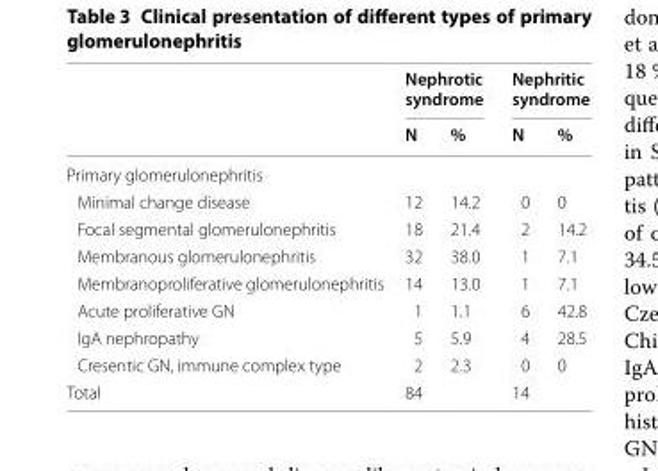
<table><thead><tr><td rowspan="2"></td><td colspan="2">Nephrotic syndrome</td><td colspan="2">Nephritic syndrome</td></tr><tr><td>N</td><td>%</td><td>N</td><td>%</td></tr></thead><tbody><tr><td colspan="5">Primary glomerulonephritis</td></tr><tr><td>Minimal change disease</td><td>12</td><td>14.2</td><td>0</td><td>0</td></tr><tr><td>Focal segmental glomerulonephritis</td><td>18</td><td>21.4</td><td>2</td><td>14.2</td></tr><tr><td>Membranous glomerulonephritis</td><td>32</td><td>38.0</td><td>1</td><td>7.1</td></tr><tr><td>Membranoproliferative glomerulonephritis</td><td>14</td><td>13.0</td><td>1</td><td>7.1</td></tr><tr><td>Acute proliferative GN</td><td>1</td><td>1.1</td><td>6</td><td>42.8</td></tr><tr><td>IgA nephropathy</td><td>5</td><td>5.9</td><td>4</td><td>28.5</td></tr><tr><td>Cresentic GN, immune complex type</td><td>2</td><td>2.3</td><td>0</td><td>0</td></tr><tr><td>Total</td><td>84</td><td></td><td>14</td><td></td></tr></tbody></table>